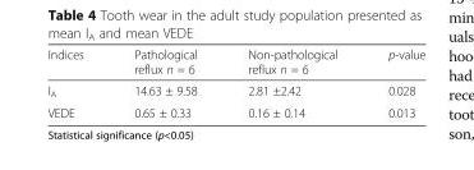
<table><thead><tr><td>Indices</td><td>Pathological reflux n = 6</td><td>Non-pathological reflux n = 6</td><td>p-value</td></tr></thead><tbody><tr><td>I<sub>A</sub></td><td>14.63 ± 9.58</td><td>2.81 ±2.42</td><td>0.028</td></tr><tr><td>VEDE</td><td>0.65 ± 0.33</td><td>0.16 ± 0.14</td><td>0.013</td></tr></tbody></table>